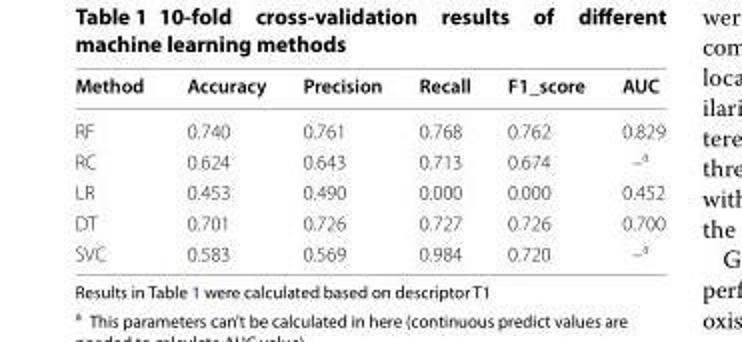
<table><thead><tr><td>Method</td><td>Accuracy</td><td>Precision</td><td>Recall</td><td>F1_score</td><td>AUC</td></tr></thead><tbody><tr><td>RF</td><td>0.740</td><td>0.761</td><td>0.768</td><td>0.762</td><td>0.829</td></tr><tr><td>RC</td><td>0.624</td><td>0.643</td><td>0.713</td><td>0.674</td><td>–<sup>a</sup></td></tr><tr><td>LR</td><td>0.453</td><td>0.490</td><td>0.000</td><td>0.000</td><td>0.452</td></tr><tr><td>DT</td><td>0.701</td><td>0.726</td><td>0.727</td><td>0.726</td><td>0.700</td></tr><tr><td>SVC</td><td>0.583</td><td>0.569</td><td>0.984</td><td>0.720</td><td>–<sup>a</sup></td></tr></tbody></table>